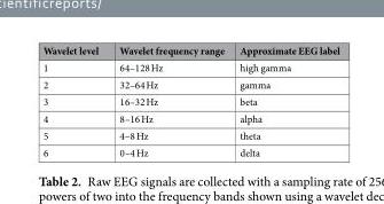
<table><thead><tr><td>Wavelet level</td><td>Wavelet frequency range</td><td>Approximate EEG label</td></tr></thead><tbody><tr><td>1</td><td>64–128 Hz</td><td>high gamma</td></tr><tr><td>2</td><td>32–64 Hz</td><td>gamma</td></tr><tr><td>3</td><td>16–32 Hz</td><td>beta</td></tr><tr><td>4</td><td>8–16 Hz</td><td>alpha</td></tr><tr><td>5</td><td>4–8 Hz</td><td>theta</td></tr><tr><td>6</td><td>0–4 Hz</td><td>delta</td></tr></tbody></table>